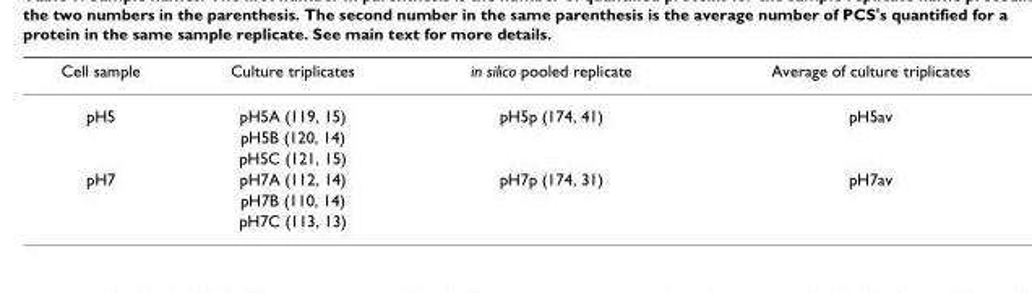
<table><thead><tr><td>Cell sample</td><td>Culture triplicates</td><td>in silico pooled replicate</td><td>Average of culture triplicates</td></tr></thead><tbody><tr><td rowspan="3">pH5</td><td>pH5A (119, 15)</td><td>pH5p (174, 41)</td><td>pH5av</td></tr><tr><td>pH5B (120, 14)</td><td></td><td></td></tr><tr><td>pH5C (121, 15)</td><td></td><td></td></tr><tr><td rowspan="3">pH7</td><td>pH7A (112, 14)</td><td>pH7p (174, 31)</td><td>pH7av</td></tr><tr><td>pH7B (110, 14)</td><td></td><td></td></tr><tr><td>pH7C (113, 13)</td><td></td><td></td></tr></tbody></table>